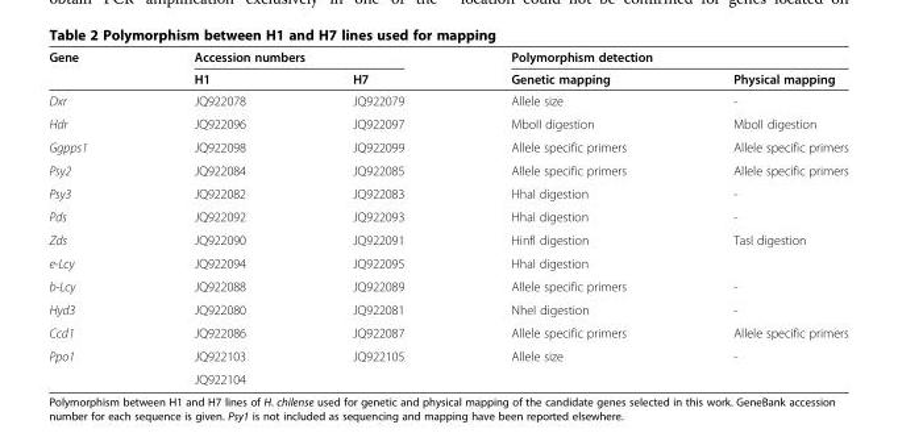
<table><thead><tr><td rowspan="2">Gene</td><td colspan="2">Accession numbers</td><td colspan="2">Polymorphism detection</td></tr><tr><td>H1</td><td>H7</td><td>Genetic mapping</td><td>Physical mapping</td></tr></thead><tbody><tr><td>Dxr</td><td>JQ922078</td><td>JQ922079</td><td>Allele size</td><td>-</td></tr><tr><td>Hdr</td><td>JQ922096</td><td>JQ922097</td><td>MboII digestion</td><td>MboII digestion</td></tr><tr><td>Ggpps1</td><td>JQ922098</td><td>JQ922099</td><td>Allele specific primers</td><td>Allele specific primers</td></tr><tr><td>Psy2</td><td>JQ922084</td><td>JQ922085</td><td>Allele specific primers</td><td>Allele specific primers</td></tr><tr><td>Psy3</td><td>JQ922082</td><td>JQ922083</td><td>HhaI digestion</td><td>-</td></tr><tr><td>Pds</td><td>JQ922092</td><td>JQ922093</td><td>HhaI digestion</td><td>-</td></tr><tr><td>Zds</td><td>JQ922090</td><td>JQ922091</td><td>HinfI digestion</td><td>TasI digestion</td></tr><tr><td>e-Lcy</td><td>JQ922094</td><td>JQ922095</td><td>HhaI digestion</td><td></td></tr><tr><td>b-Lcy</td><td>JQ922088</td><td>JQ922089</td><td>Allele specific primers</td><td>-</td></tr><tr><td>Hyd3</td><td>JQ922080</td><td>JQ922081</td><td>NheI digestion</td><td>-</td></tr><tr><td>Ccd1</td><td>JQ922086</td><td>JQ922087</td><td>Allele specific primers</td><td>Allele specific primers</td></tr><tr><td rowspan="2">Ppo1</td><td>JQ922103</td><td>JQ922105</td><td>Allele size</td><td>-</td></tr><tr><td>JQ922104</td><td></td><td></td><td></td></tr></tbody></table>